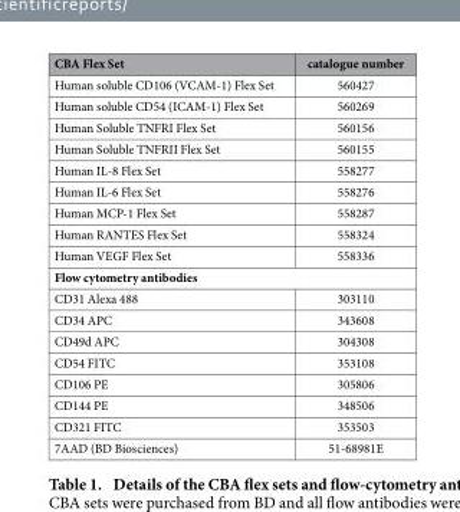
<table><thead><tr><td>CBA Flex Set</td><td>catalogue number</td></tr></thead><tbody><tr><td>Human soluble CD106 (VCAM-1) Flex Set</td><td>560427</td></tr><tr><td>Human soluble CD54 (ICAM-1) Flex Set</td><td>560269</td></tr><tr><td>Human Soluble TNFRI Flex Set</td><td>560156</td></tr><tr><td>Human Soluble TNFRII Flex Set</td><td>560155</td></tr><tr><td>Human IL-8 Flex Set</td><td>558277</td></tr><tr><td>Human IL-6 Flex Set</td><td>558276</td></tr><tr><td>Human MCP-1 Flex Set</td><td>558287</td></tr><tr><td>Human RANTES Flex Set</td><td>558324</td></tr><tr><td>Human VEGF Flex Set</td><td>558336</td></tr><tr><td colspan="2">Flow cytometry antibodies</td></tr><tr><td>CD31 Alexa 488</td><td>303110</td></tr><tr><td>CD34 APC</td><td>343608</td></tr><tr><td>CD49d APC</td><td>304308</td></tr><tr><td>CD54 FITC</td><td>353108</td></tr><tr><td>CD106 PE</td><td>305806</td></tr><tr><td>CD144 PE</td><td>348506</td></tr><tr><td>CD321 FITC</td><td>353503</td></tr><tr><td>7AAD (BD Biosciences)</td><td>51-68981E</td></tr></tbody></table>